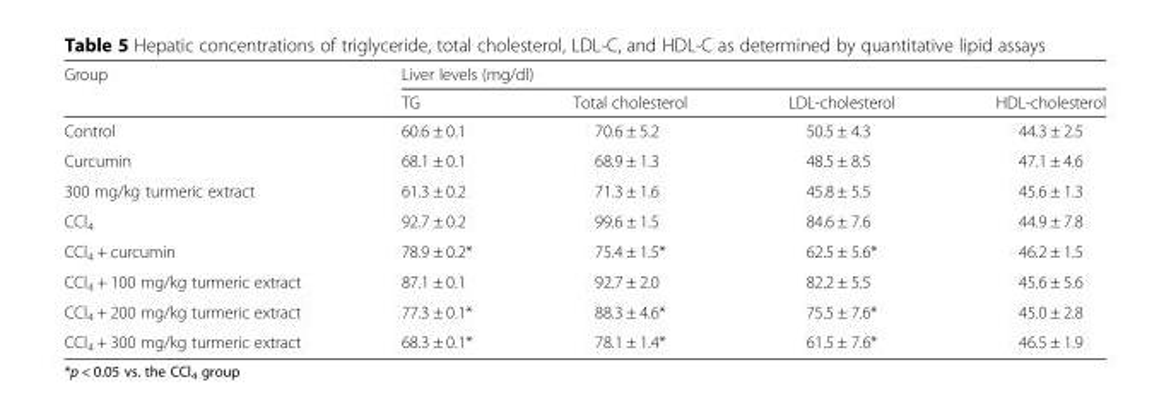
<table><thead><tr><td rowspan="2">Group</td><td colspan="4">Liver levels (mg/dl)</td></tr><tr><td>TG</td><td>Total cholesterol</td><td>LDL-cholesterol</td><td>HDL-cholesterol</td></tr></thead><tbody><tr><td>Control</td><td>60.6 ± 0.1</td><td>70.6 ± 5.2</td><td>50.5 ± 4.3</td><td>44.3 ± 2.5</td></tr><tr><td>Curcumin</td><td>68.1 ± 0.1</td><td>68.9 ± 1.3</td><td>48.5 ± 8.5</td><td>47.1 ± 4.6</td></tr><tr><td>300 mg/kg turmeric extract</td><td>61.3 ± 0.2</td><td>71.3 ± 1.6</td><td>45.8 ± 5.5</td><td>45.6 ± 1.3</td></tr><tr><td>CCl<sub>4</sub></td><td>92.7 ± 0.2</td><td>99.6 ± 1.5</td><td>84.6 ± 7.6</td><td>44.9 ± 7.8</td></tr><tr><td>CCl<sub>4</sub> + curcumin</td><td>78.9 ± 0.2*</td><td>75.4 ± 1.5*</td><td>62.5 ± 5.6*</td><td>46.2 ± 1.5</td></tr><tr><td>CCl<sub>4</sub> + 100 mg/kg turmeric extract</td><td>87.1 ± 0.1</td><td>92.7 ± 2.0</td><td>82.2 ± 5.5</td><td>45.6 ± 5.6</td></tr><tr><td>CCl<sub>4</sub> + 200 mg/kg turmeric extract</td><td>77.3 ± 0.1*</td><td>88.3 ± 4.6*</td><td>75.5 ± 7.6*</td><td>45.0 ± 2.8</td></tr><tr><td>CCl<sub>4</sub> + 300 mg/kg turmeric extract</td><td>68.3 ± 0.1*</td><td>78.1 ± 1.4*</td><td>61.5 ± 7.6*</td><td>46.5 ± 1.9</td></tr></tbody></table>